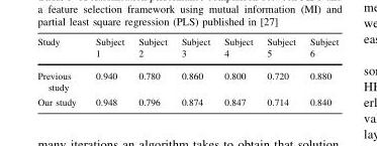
<table><thead><tr><td>Study</td><td>Subject 1</td><td>Subject 2</td><td>Subject 3</td><td>Subject 4</td><td>Subject 5</td><td>Subject 6</td></tr></thead><tbody><tr><td>Previous study</td><td>0.940</td><td>0.780</td><td>0.860</td><td>0.800</td><td>0.720</td><td>0.880</td></tr><tr><td>Our study</td><td>0.948</td><td>0.796</td><td>0.874</td><td>0.847</td><td>0.714</td><td>0.840</td></tr></tbody></table>